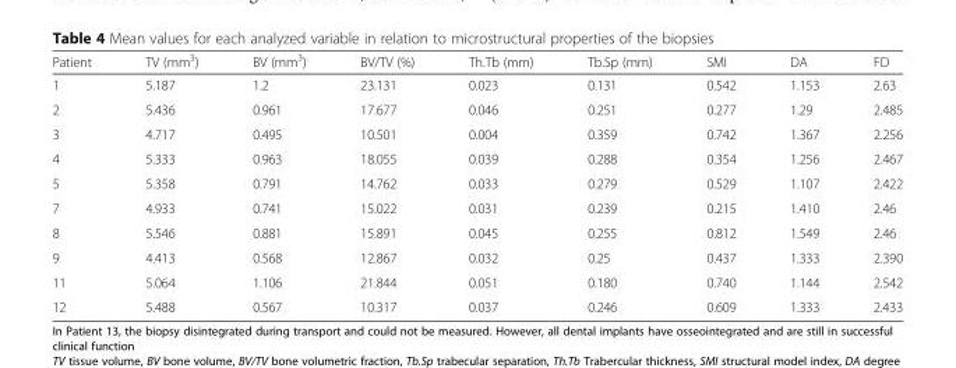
<table><thead><tr><td>Patient</td><td>TV (mm<sup>3</sup>)</td><td>BV (mm<sup>3</sup>)</td><td>BV/TV (%)</td><td>Th.Tb (mm)</td><td>Tb.Sp (mm)</td><td>SMI</td><td>DA</td><td>FD</td></tr></thead><tbody><tr><td>1</td><td>5.187</td><td>1.2</td><td>23.131</td><td>0.023</td><td>0.131</td><td>0.542</td><td>1.153</td><td>2.63</td></tr><tr><td>2</td><td>5.436</td><td>0.961</td><td>17.677</td><td>0.046</td><td>0.251</td><td>0.277</td><td>1.29</td><td>2.485</td></tr><tr><td>3</td><td>4.717</td><td>0.495</td><td>10.501</td><td>0.004</td><td>0.359</td><td>0.742</td><td>1.367</td><td>2.256</td></tr><tr><td>4</td><td>5.333</td><td>0.963</td><td>18.055</td><td>0.039</td><td>0.288</td><td>0.354</td><td>1.256</td><td>2.467</td></tr><tr><td>5</td><td>5.358</td><td>0.791</td><td>14.762</td><td>0.033</td><td>0.279</td><td>0.529</td><td>1.107</td><td>2.422</td></tr><tr><td>7</td><td>4.933</td><td>0.741</td><td>15.022</td><td>0.031</td><td>0.239</td><td>0.215</td><td>1.410</td><td>2.46</td></tr><tr><td>8</td><td>5.546</td><td>0.881</td><td>15.891</td><td>0.045</td><td>0.255</td><td>0.812</td><td>1.549</td><td>2.46</td></tr><tr><td>9</td><td>4.413</td><td>0.568</td><td>12.867</td><td>0.032</td><td>0.25</td><td>0.437</td><td>1.333</td><td>2.390</td></tr><tr><td>11</td><td>5.064</td><td>1.106</td><td>21.844</td><td>0.051</td><td>0.180</td><td>0.740</td><td>1.144</td><td>2.542</td></tr><tr><td>12</td><td>5.488</td><td>0.567</td><td>10.317</td><td>0.037</td><td>0.246</td><td>0.609</td><td>1.333</td><td>2.433</td></tr></tbody></table>